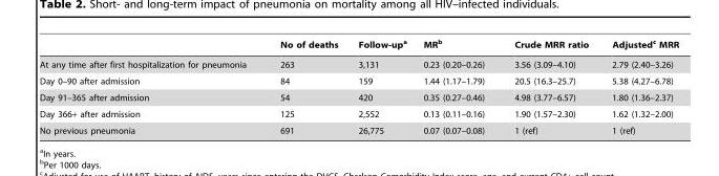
<table><thead><tr><td></td><td>No of deaths</td><td>Follow-up<sup>a</sup></td><td>MR<sup>b</sup></td><td>Crude MRR ratio</td><td>Adjusted<sup>c</sup> MRR</td></tr></thead><tbody><tr><td>At any time after first hospitalization for pneumonia</td><td>263</td><td>3,131</td><td>0.23 (0.20–0.26)</td><td>3.56 (3.09–4.10)</td><td>2.79 (2.40–3.26)</td></tr><tr><td>Day 0–90 after admission</td><td>84</td><td>159</td><td>1.44 (1.17–1.79)</td><td>20.5 (16.3–25.7)</td><td>5.38 (4.27–6.78)</td></tr><tr><td>Day 91–365 after admission</td><td>54</td><td>420</td><td>0.35 (0.27–0.46)</td><td>4.98 (3.77–6.57)</td><td>1.80 (1.36–2.37)</td></tr><tr><td>Day 366+ after admission</td><td>125</td><td>2,552</td><td>0.13 (0.11–0.16)</td><td>1.90 (1.57–2.30)</td><td>1.62 (1.32–2.00)</td></tr><tr><td>No previous pneumonia</td><td>691</td><td>26,775</td><td>0.07 (0.07–0.08)</td><td>1 (ref)</td><td>1 (ref)</td></tr></tbody></table>